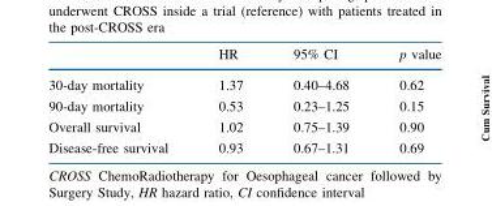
<table><thead><tr><td></td><td>HR</td><td>95% CI</td><td>p value</td></tr></thead><tbody><tr><td>30-day mortality</td><td>1.37</td><td>0.40–4.68</td><td>0.62</td></tr><tr><td>90-day mortality</td><td>0.53</td><td>0.23–1.25</td><td>0.15</td></tr><tr><td>Overall survival</td><td>1.02</td><td>0.75–1.39</td><td>0.90</td></tr><tr><td>Disease-free survival</td><td>0.93</td><td>0.67–1.31</td><td>0.69</td></tr></tbody></table>